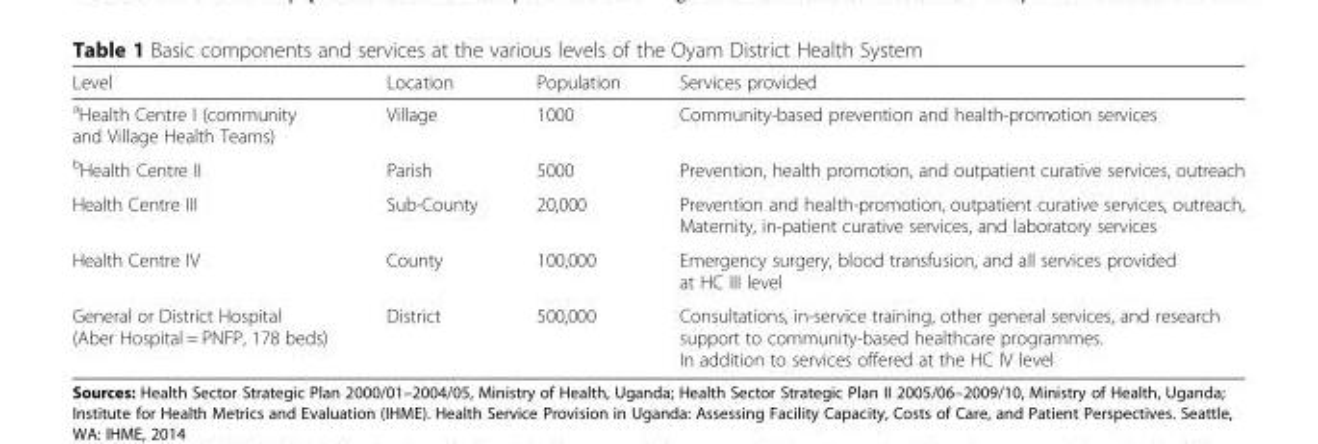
<table><thead><tr><td>Level</td><td>Location</td><td>Population</td><td>Services provided</td></tr></thead><tbody><tr><td><sup>a</sup>Health Centre I (community and Village Health Teams)</td><td>Village</td><td>1000</td><td>Community-based prevention and health-promotion services</td></tr><tr><td><sup>b</sup>Health Centre II</td><td>Parish</td><td>5000</td><td>Prevention, health promotion, and outpatient curative services, outreach</td></tr><tr><td>Health Centre III</td><td>Sub-County</td><td>20,000</td><td>Prevention and health-promotion, outpatient curative services, outreach, Maternity, in-patient curative services, and laboratory services</td></tr><tr><td>Health Centre IV</td><td>County</td><td>100,000</td><td>Emergency surgery, blood transfusion, and all services provided at HC III level</td></tr><tr><td>General or District Hospital (Aber Hospital = PNFP, 178 beds)</td><td>District</td><td>500,000</td><td>Consultations, in-service training, other general services, and research support to community-based healthcare programmes. In addition to services offered at the HC IV level</td></tr></tbody></table>